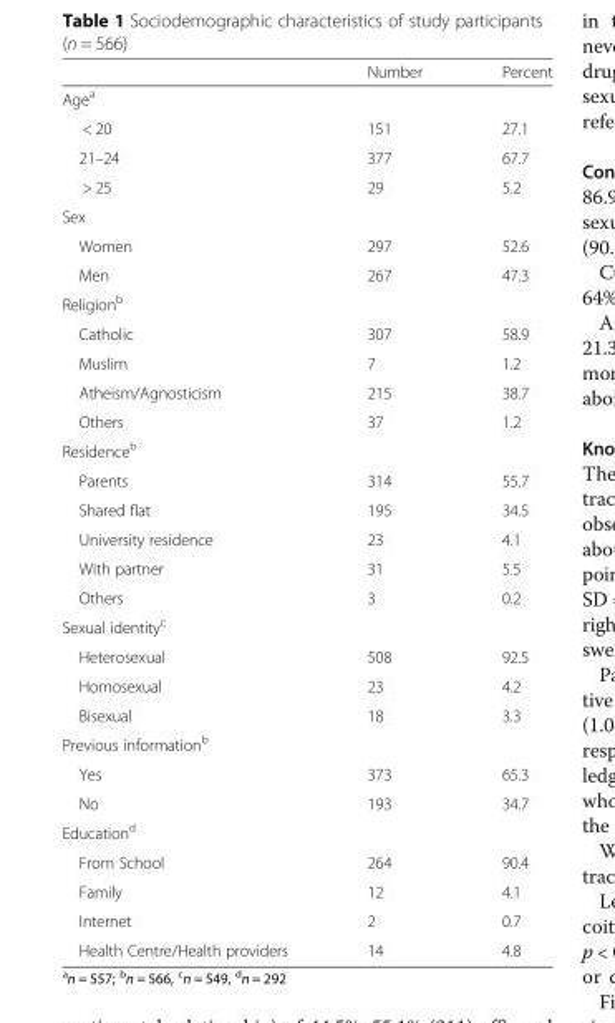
<table><thead><tr><td></td><td>Number</td><td>Percent</td></tr></thead><tbody><tr><td colspan="3">Age<sup>a</sup></td></tr><tr><td>&lt; 20</td><td>151</td><td>27.1</td></tr><tr><td>21–24</td><td>377</td><td>67.7</td></tr><tr><td>&gt; 25</td><td>29</td><td>5.2</td></tr><tr><td colspan="3">Sex</td></tr><tr><td>Women</td><td>297</td><td>52.6</td></tr><tr><td>Men</td><td>267</td><td>47.3</td></tr><tr><td colspan="3">Religion<sup>b</sup></td></tr><tr><td>Catholic</td><td>307</td><td>58.9</td></tr><tr><td>Muslim</td><td>7</td><td>1.2</td></tr><tr><td>Atheism/Agnosticism</td><td>215</td><td>38.7</td></tr><tr><td>Others</td><td>37</td><td>1.2</td></tr><tr><td colspan="3">Residence<sup>b</sup></td></tr><tr><td>Parents</td><td>314</td><td>55.7</td></tr><tr><td>Shared flat</td><td>195</td><td>34.5</td></tr><tr><td>University residence</td><td>23</td><td>4.1</td></tr><tr><td>With partner</td><td>31</td><td>5.5</td></tr><tr><td>Others</td><td>3</td><td>0.2</td></tr><tr><td colspan="3">Sexual identity<sup>c</sup></td></tr><tr><td>Heterosexual</td><td>508</td><td>92.5</td></tr><tr><td>Homosexual</td><td>23</td><td>4.2</td></tr><tr><td>Bisexual</td><td>18</td><td>3.3</td></tr><tr><td colspan="3">Previous information<sup>b</sup></td></tr><tr><td>Yes</td><td>373</td><td>65.3</td></tr><tr><td>No</td><td>193</td><td>34.7</td></tr><tr><td colspan="3">Education<sup>d</sup></td></tr><tr><td>From School</td><td>264</td><td>90.4</td></tr><tr><td>Family</td><td>12</td><td>4.1</td></tr><tr><td>Internet</td><td>2</td><td>0.7</td></tr><tr><td>Health Centre/Health providers</td><td>14</td><td>4.8</td></tr></tbody></table>